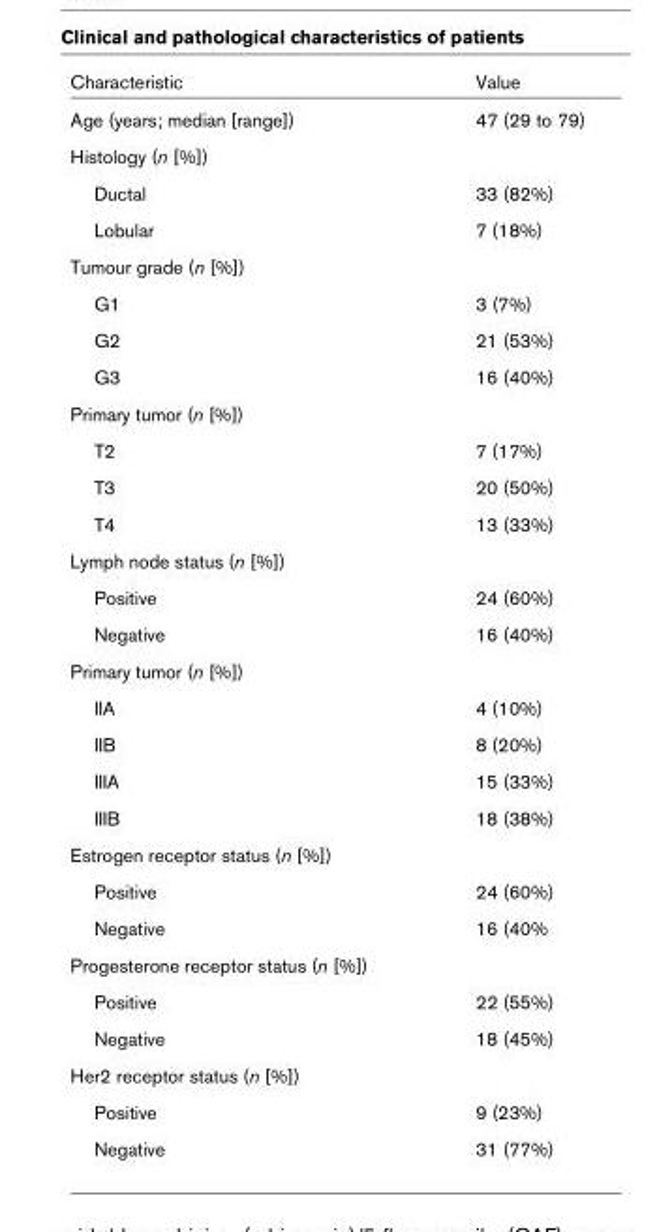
<table><thead><tr><td>Characteristic</td><td>Value</td></tr></thead><tbody><tr><td>Age (years; median [range])</td><td>47 (29 to 79)</td></tr><tr><td colspan="2">Histology (n [%])</td></tr><tr><td>Ductal</td><td>33 (82%)</td></tr><tr><td>Lobular</td><td>7 (18%)</td></tr><tr><td colspan="2">Tumour grade (n [%])</td></tr><tr><td>G1</td><td>3 (7%)</td></tr><tr><td>G2</td><td>21 (53%)</td></tr><tr><td>G3</td><td>16 (40%)</td></tr><tr><td colspan="2">Primary tumor (n [%])</td></tr><tr><td>T2</td><td>7 (17%)</td></tr><tr><td>T3</td><td>20 (50%)</td></tr><tr><td>T4</td><td>13 (33%)</td></tr><tr><td colspan="2">Lymph node status (n [%])</td></tr><tr><td>Positive</td><td>24 (60%)</td></tr><tr><td>Negative</td><td>16 (40%)</td></tr><tr><td colspan="2">Primary tumor (n [%])</td></tr><tr><td>IIA</td><td>4 (10%)</td></tr><tr><td>IIB</td><td>8 (20%)</td></tr><tr><td>IIIA</td><td>15 (33%)</td></tr><tr><td>IIIB</td><td>18 (38%)</td></tr><tr><td colspan="2">Estrogen receptor status (n [%])</td></tr><tr><td>Positive</td><td>24 (60%)</td></tr><tr><td>Negative</td><td>16 (40%</td></tr><tr><td colspan="2">Progesterone receptor status (n [%])</td></tr><tr><td>Positive</td><td>22 (55%)</td></tr><tr><td>Negative</td><td>18 (45%)</td></tr><tr><td colspan="2">Her2 receptor status (n [%])</td></tr><tr><td>Positive</td><td>9 (23%)</td></tr><tr><td>Negative</td><td>31 (77%)</td></tr></tbody></table>